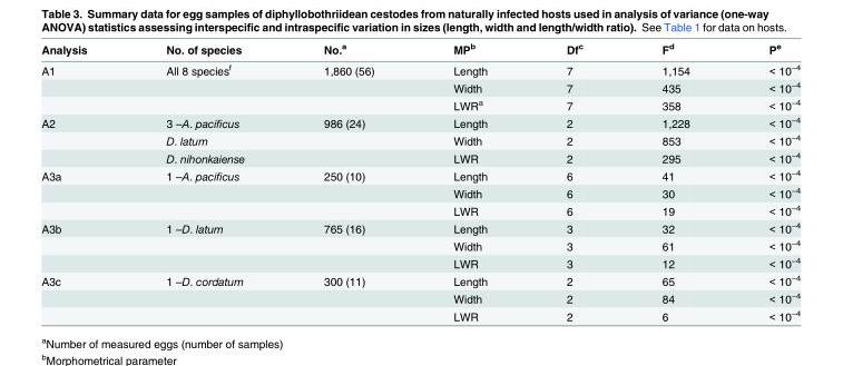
<table><thead><tr><td>Analysis</td><td>No. of species</td><td>No.<sup>a</sup></td><td>MP<sup>b</sup></td><td>Df<sup>c</sup></td><td>F<sup>d</sup></td><td>P<sup>e</sup></td></tr></thead><tbody><tr><td rowspan="3">A1</td><td>All 8 species<sup>f</sup></td><td>1,860 (56)</td><td>Length</td><td>7</td><td>1,154</td><td>&lt; 10<sup>−4</sup></td></tr><tr><td></td><td></td><td>Width</td><td>7</td><td>435</td><td>&lt; 10<sup>−4</sup></td></tr><tr><td></td><td></td><td>LWR<sup>a</sup></td><td>7</td><td>358</td><td>&lt; 10<sup>−4</sup></td></tr><tr><td rowspan="3">A2</td><td>3 –A. pacificus</td><td>986 (24)</td><td>Length</td><td>2</td><td>1,228</td><td>&lt; 10<sup>−4</sup></td></tr><tr><td>D. latum</td><td></td><td>Width</td><td>2</td><td>853</td><td>&lt; 10<sup>−4</sup></td></tr><tr><td>D. nihonkaiense</td><td></td><td>LWR</td><td>2</td><td>295</td><td>&lt; 10<sup>−4</sup></td></tr><tr><td rowspan="3">A3a</td><td>1 –A. pacificus</td><td>250 (10)</td><td>Length</td><td>6</td><td>41</td><td>&lt; 10<sup>−4</sup></td></tr><tr><td></td><td></td><td>Width</td><td>6</td><td>30</td><td>&lt; 10<sup>−4</sup></td></tr><tr><td></td><td></td><td>LWR</td><td>6</td><td>19</td><td>&lt; 10<sup>−4</sup></td></tr><tr><td rowspan="3">A3b</td><td>1 –D. latum</td><td>765 (16)</td><td>Length</td><td>3</td><td>32</td><td>&lt; 10<sup>−4</sup></td></tr><tr><td></td><td></td><td>Width</td><td>3</td><td>61</td><td>&lt; 10<sup>−4</sup></td></tr><tr><td></td><td></td><td>LWR</td><td>3</td><td>12</td><td>&lt; 10<sup>−4</sup></td></tr><tr><td rowspan="3">A3c</td><td>1 –D. cordatum</td><td>300 (11)</td><td>Length</td><td>2</td><td>65</td><td>&lt; 10<sup>−4</sup></td></tr><tr><td></td><td></td><td>Width</td><td>2</td><td>84</td><td>&lt; 10<sup>−4</sup></td></tr><tr><td></td><td></td><td>LWR</td><td>2</td><td>6</td><td>&lt; 10<sup>−4</sup></td></tr></tbody></table>